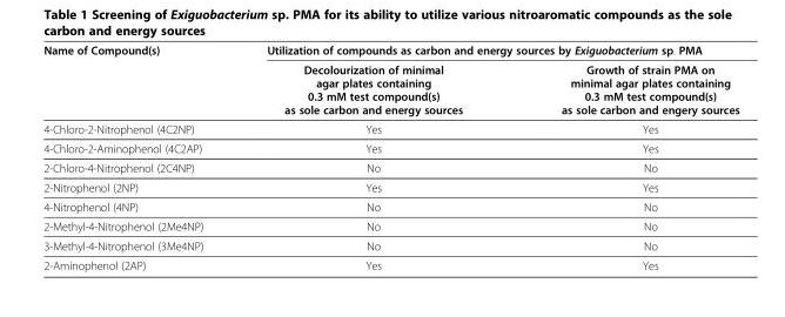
<table><thead><tr><td rowspan="2">Name of Compound(s)</td><td colspan="2">Utilization of compounds as carbon and energy sources by Exiguobacterium sp. PMA</td></tr><tr><td>Decolourization of minimal agar plates containing 0.3 mM test compound(s) as sole carbon and energy sources</td><td>Growth of strain PMA on minimal agar plates containing 0.3 mM test compound(s) as sole carbon and engery sources</td></tr></thead><tbody><tr><td>4-Chloro-2-Nitrophenol (4C2NP)</td><td>Yes</td><td>Yes</td></tr><tr><td>4-Chloro-2-Aminophenol (4C2AP)</td><td>Yes</td><td>Yes</td></tr><tr><td>2-Chloro-4-Nitrophenol (2C4NP)</td><td>No</td><td>No</td></tr><tr><td>2-Nitrophenol (2NP)</td><td>Yes</td><td>Yes</td></tr><tr><td>4-Nitrophenol (4NP)</td><td>No</td><td>No</td></tr><tr><td>2-Methyl-4-Nitrophenol (2Me4NP)</td><td>No</td><td>No</td></tr><tr><td>3-Methyl-4-Nitrophenol (3Me4NP)</td><td>No</td><td>No</td></tr><tr><td>2-Aminophenol (2AP)</td><td>Yes</td><td>Yes</td></tr></tbody></table>